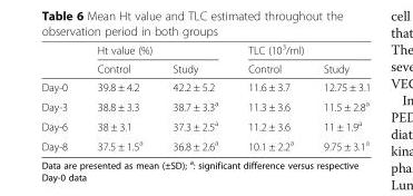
<table><thead><tr><td rowspan="2"></td><td colspan="2">Ht value (%)</td><td colspan="2">TLC (10<sup>3</sup>/ml)</td></tr><tr><td>Control</td><td>Study</td><td>Control</td><td>Study</td></tr></thead><tbody><tr><td>Day-0</td><td>39.8 ± 4.2</td><td>42.2 ± 5.2</td><td>11.6 ± 3.7</td><td>12.75 ± 3.1</td></tr><tr><td>Day-3</td><td>38.8 ± 3.3</td><td>38.7 ± 3.3<sup>a</sup></td><td>11.3 ± 3.6</td><td>11.5 ± 2.8<sup>a</sup></td></tr><tr><td>Day-6</td><td>38 ± 3.1</td><td>37.3 ± 2.5<sup>a</sup></td><td>11.2 ± 3.6</td><td>11 ± 1.9<sup>a</sup></td></tr><tr><td>Day-8</td><td>37.5 ± 1.5<sup>a</sup></td><td>36.8 ± 2.6<sup>a</sup></td><td>10.1 ± 2.2<sup>a</sup></td><td>9.75 ± 3.1<sup>a</sup></td></tr></tbody></table>